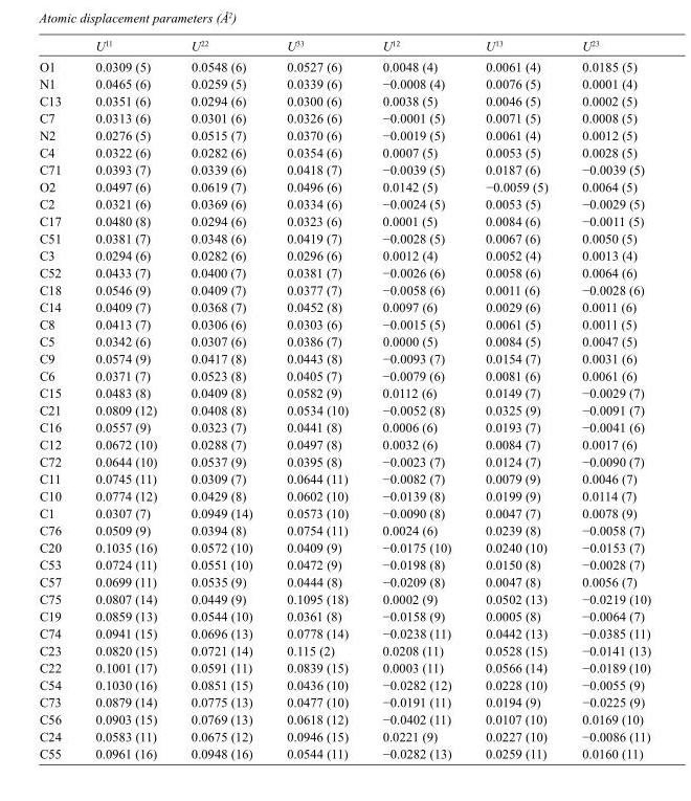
<table><thead><tr><td></td><td>U<sup>11</sup></td><td>U<sup>22</sup></td><td>U<sup>33</sup></td><td>U<sup>12</sup></td><td>U<sup>13</sup></td><td>U<sup>23</sup></td></tr></thead><tbody><tr><td>O1</td><td>0.0309 (5)</td><td>0.0548 (6)</td><td>0.0527 (6)</td><td>0.0048 (4)</td><td>0.0061 (4)</td><td>0.0185 (5)</td></tr><tr><td>N1</td><td>0.0465 (6)</td><td>0.0259 (5)</td><td>0.0339 (6)</td><td>−0.0008 (4)</td><td>0.0076 (5)</td><td>0.0001 (4)</td></tr><tr><td>C13</td><td>0.0351 (6)</td><td>0.0294 (6)</td><td>0.0300 (6)</td><td>0.0038 (5)</td><td>0.0046 (5)</td><td>0.0002 (5)</td></tr><tr><td>C7</td><td>0.0313 (6)</td><td>0.0301 (6)</td><td>0.0326 (6)</td><td>−0.0001 (5)</td><td>0.0071 (5)</td><td>0.0008 (5)</td></tr><tr><td>N2</td><td>0.0276 (5)</td><td>0.0515 (7)</td><td>0.0370 (6)</td><td>−0.0019 (5)</td><td>0.0061 (4)</td><td>0.0012 (5)</td></tr><tr><td>C4</td><td>0.0322 (6)</td><td>0.0282 (6)</td><td>0.0354 (6)</td><td>0.0007 (5)</td><td>0.0053 (5)</td><td>0.0028 (5)</td></tr><tr><td>C71</td><td>0.0393 (7)</td><td>0.0339 (6)</td><td>0.0418 (7)</td><td>−0.0039 (5)</td><td>0.0187 (6)</td><td>−0.0039 (5)</td></tr><tr><td>O2</td><td>0.0497 (6)</td><td>0.0619 (7)</td><td>0.0496 (6)</td><td>0.0142 (5)</td><td>−0.0059 (5)</td><td>0.0064 (5)</td></tr><tr><td>C2</td><td>0.0321 (6)</td><td>0.0369 (6)</td><td>0.0334 (6)</td><td>−0.0024 (5)</td><td>0.0053 (5)</td><td>−0.0029 (5)</td></tr><tr><td>C17</td><td>0.0480 (8)</td><td>0.0294 (6)</td><td>0.0323 (6)</td><td>0.0001 (5)</td><td>0.0084 (6)</td><td>−0.0011 (5)</td></tr><tr><td>C51</td><td>0.0381 (7)</td><td>0.0348 (6)</td><td>0.0419 (7)</td><td>−0.0028 (5)</td><td>0.0067 (6)</td><td>0.0050 (5)</td></tr><tr><td>C3</td><td>0.0294 (6)</td><td>0.0282 (6)</td><td>0.0296 (6)</td><td>0.0012 (4)</td><td>0.0052 (4)</td><td>0.0013 (4)</td></tr><tr><td>C52</td><td>0.0433 (7)</td><td>0.0400 (7)</td><td>0.0381 (7)</td><td>−0.0026 (6)</td><td>0.0058 (6)</td><td>0.0064 (6)</td></tr><tr><td>C18</td><td>0.0546 (9)</td><td>0.0409 (7)</td><td>0.0377 (7)</td><td>−0.0058 (6)</td><td>0.0011 (6)</td><td>−0.0028 (6)</td></tr><tr><td>C14</td><td>0.0409 (7)</td><td>0.0368 (7)</td><td>0.0452 (8)</td><td>0.0097 (6)</td><td>0.0029 (6)</td><td>0.0011 (6)</td></tr><tr><td>C8</td><td>0.0413 (7)</td><td>0.0306 (6)</td><td>0.0303 (6)</td><td>−0.0015 (5)</td><td>0.0061 (5)</td><td>0.0011 (5)</td></tr><tr><td>C5</td><td>0.0342 (6)</td><td>0.0307 (6)</td><td>0.0386 (7)</td><td>0.0000 (5)</td><td>0.0084 (5)</td><td>0.0047 (5)</td></tr><tr><td>C9</td><td>0.0574 (9)</td><td>0.0417 (8)</td><td>0.0443 (8)</td><td>−0.0093 (7)</td><td>0.0154 (7)</td><td>0.0031 (6)</td></tr><tr><td>C6</td><td>0.0371 (7)</td><td>0.0523 (8)</td><td>0.0405 (7)</td><td>−0.0079 (6)</td><td>0.0081 (6)</td><td>0.0061 (6)</td></tr><tr><td>C15</td><td>0.0483 (8)</td><td>0.0409 (8)</td><td>0.0582 (9)</td><td>0.0112 (6)</td><td>0.0149 (7)</td><td>−0.0029 (7)</td></tr><tr><td>C21</td><td>0.0809 (12)</td><td>0.0408 (8)</td><td>0.0534 (10)</td><td>−0.0052 (8)</td><td>0.0325 (9)</td><td>−0.0091 (7)</td></tr><tr><td>C16</td><td>0.0557 (9)</td><td>0.0323 (7)</td><td>0.0441 (8)</td><td>0.0006 (6)</td><td>0.0193 (7)</td><td>−0.0041 (6)</td></tr><tr><td>C12</td><td>0.0672 (10)</td><td>0.0288 (7)</td><td>0.0497 (8)</td><td>0.0032 (6)</td><td>0.0084 (7)</td><td>0.0017 (6)</td></tr><tr><td>C72</td><td>0.0644 (10)</td><td>0.0537 (9)</td><td>0.0395 (8)</td><td>−0.0023 (7)</td><td>0.0124 (7)</td><td>−0.0090 (7)</td></tr><tr><td>C11</td><td>0.0745 (11)</td><td>0.0309 (7)</td><td>0.0644 (11)</td><td>−0.0082 (7)</td><td>0.0079 (9)</td><td>0.0046 (7)</td></tr><tr><td>C10</td><td>0.0774 (12)</td><td>0.0429 (8)</td><td>0.0602 (10)</td><td>−0.0139 (8)</td><td>0.0199 (9)</td><td>0.0114 (7)</td></tr><tr><td>C1</td><td>0.0307 (7)</td><td>0.0949 (14)</td><td>0.0573 (10)</td><td>−0.0090 (8)</td><td>0.0047 (7)</td><td>0.0078 (9)</td></tr><tr><td>C76</td><td>0.0509 (9)</td><td>0.0394 (8)</td><td>0.0754 (11)</td><td>0.0024 (6)</td><td>0.0239 (8)</td><td>−0.0058 (7)</td></tr><tr><td>C20</td><td>0.1035 (16)</td><td>0.0572 (10)</td><td>0.0409 (9)</td><td>−0.0175 (10)</td><td>0.0240 (10)</td><td>−0.0153 (7)</td></tr><tr><td>C53</td><td>0.0724 (11)</td><td>0.0551 (10)</td><td>0.0472 (9)</td><td>−0.0198 (8)</td><td>0.0150 (8)</td><td>−0.0028 (7)</td></tr><tr><td>C57</td><td>0.0699 (11)</td><td>0.0535 (9)</td><td>0.0444 (8)</td><td>−0.0209 (8)</td><td>0.0047 (8)</td><td>0.0056 (7)</td></tr><tr><td>C75</td><td>0.0807 (14)</td><td>0.0449 (9)</td><td>0.1095 (18)</td><td>0.0002 (9)</td><td>0.0502 (13)</td><td>−0.0219 (10)</td></tr><tr><td>C19</td><td>0.0859 (13)</td><td>0.0544 (10)</td><td>0.0361 (8)</td><td>−0.0158 (9)</td><td>0.0005 (8)</td><td>−0.0064 (7)</td></tr><tr><td>C74</td><td>0.0941 (15)</td><td>0.0696 (13)</td><td>0.0778 (14)</td><td>−0.0238 (11)</td><td>0.0442 (13)</td><td>−0.0385 (11)</td></tr><tr><td>C23</td><td>0.0820 (15)</td><td>0.0721 (14)</td><td>0.115 (2)</td><td>0.0208 (11)</td><td>0.0528 (15)</td><td>−0.0141 (13)</td></tr><tr><td>C22</td><td>0.1001 (17)</td><td>0.0591 (11)</td><td>0.0839 (15)</td><td>0.0003 (11)</td><td>0.0566 (14)</td><td>−0.0189 (10)</td></tr><tr><td>C54</td><td>0.1030 (16)</td><td>0.0851 (15)</td><td>0.0436 (10)</td><td>−0.0282 (12)</td><td>0.0228 (10)</td><td>−0.0055 (9)</td></tr><tr><td>C73</td><td>0.0879 (14)</td><td>0.0775 (13)</td><td>0.0477 (10)</td><td>−0.0191 (11)</td><td>0.0194 (9)</td><td>−0.0225 (9)</td></tr><tr><td>C56</td><td>0.0903 (15)</td><td>0.0769 (13)</td><td>0.0618 (12)</td><td>−0.0402 (11)</td><td>0.0107 (10)</td><td>0.0169 (10)</td></tr><tr><td>C24</td><td>0.0583 (11)</td><td>0.0675 (12)</td><td>0.0946 (15)</td><td>0.0221 (9)</td><td>0.0227 (10)</td><td>−0.0086 (11)</td></tr><tr><td>C55</td><td>0.0961 (16)</td><td>0.0948 (16)</td><td>0.0544 (11)</td><td>−0.0282 (13)</td><td>0.0259 (11)</td><td>0.0160 (11)</td></tr></tbody></table>